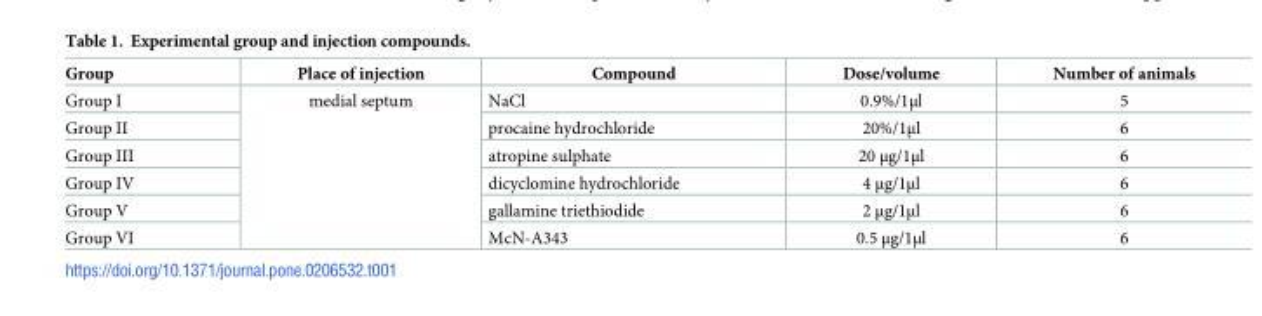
<table><thead><tr><td>Group</td><td>Place of injection</td><td>Compound</td><td>Dose/volume</td><td>Number of animals</td></tr></thead><tbody><tr><td>Group I</td><td rowspan="6">medial septum</td><td>NaCl</td><td>0.9%/1μl</td><td>5</td></tr><tr><td>Group II</td><td>procaine hydrochloride</td><td>20%/1μl</td><td>6</td></tr><tr><td>Group III</td><td>atropine sulphate</td><td>20 μg/1μl</td><td>6</td></tr><tr><td>Group IV</td><td>dicyclomine hydrochloride</td><td>4 μg/1μl</td><td>6</td></tr><tr><td>Group V</td><td>gallamine triethiodide</td><td>2 μg/1μl</td><td>6</td></tr><tr><td>Group VI</td><td>McN-A343</td><td>0.5 μg/1μl</td><td>6</td></tr></tbody></table>